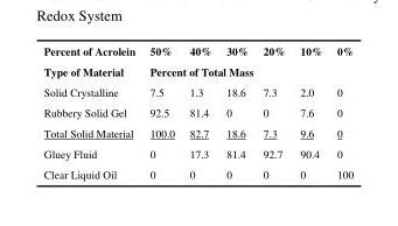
<table><thead><tr><td>Percent of Acrolein</td><td>50%</td><td>40%</td><td>30%</td><td>20%</td><td>10%</td><td>0%</td></tr></thead><tbody><tr><td>Type of Material</td><td colspan="6">Percent of Total Mass</td></tr><tr><td>Solid Crystalline</td><td>7.5</td><td>1.3</td><td>18.6</td><td>7.3</td><td>2.0</td><td>0</td></tr><tr><td>Rubbery Solid Gel</td><td>92.5</td><td>81.4</td><td>0</td><td>0</td><td>7.6</td><td>0</td></tr><tr><td>Total Solid Material</td><td>100.0</td><td>82.7</td><td>18.6</td><td>7.3</td><td>9.6</td><td>0</td></tr><tr><td>Gluey Fluid</td><td>0</td><td>17.3</td><td>81.4</td><td>92.7</td><td>90.4</td><td>0</td></tr><tr><td>Clear Liquid Oil</td><td>0</td><td>0</td><td>0</td><td>0</td><td>0</td><td>100</td></tr></tbody></table>